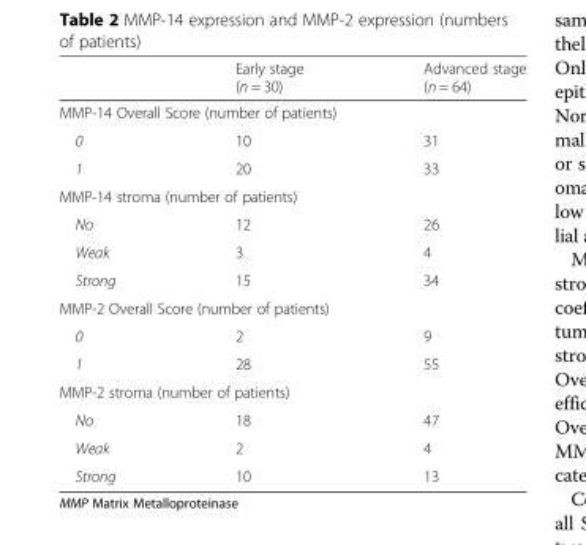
<table><thead><tr><td></td><td>Early stage (n = 30)</td><td>Advanced stage (n = 64)</td></tr></thead><tbody><tr><td colspan="3">MMP-14 Overall Score (number of patients)</td></tr><tr><td>0</td><td>10</td><td>31</td></tr><tr><td>1</td><td>20</td><td>33</td></tr><tr><td colspan="3">MMP-14 stroma (number of patients)</td></tr><tr><td>No</td><td>12</td><td>26</td></tr><tr><td>Weak</td><td>3</td><td>4</td></tr><tr><td>Strong</td><td>15</td><td>34</td></tr><tr><td colspan="3">MMP-2 Overall Score (number of patients)</td></tr><tr><td>0</td><td>2</td><td>9</td></tr><tr><td>1</td><td>28</td><td>55</td></tr><tr><td colspan="3">MMP-2 stroma (number of patients)</td></tr><tr><td>No</td><td>18</td><td>47</td></tr><tr><td>Weak</td><td>2</td><td>4</td></tr><tr><td>Strong</td><td>10</td><td>13</td></tr></tbody></table>